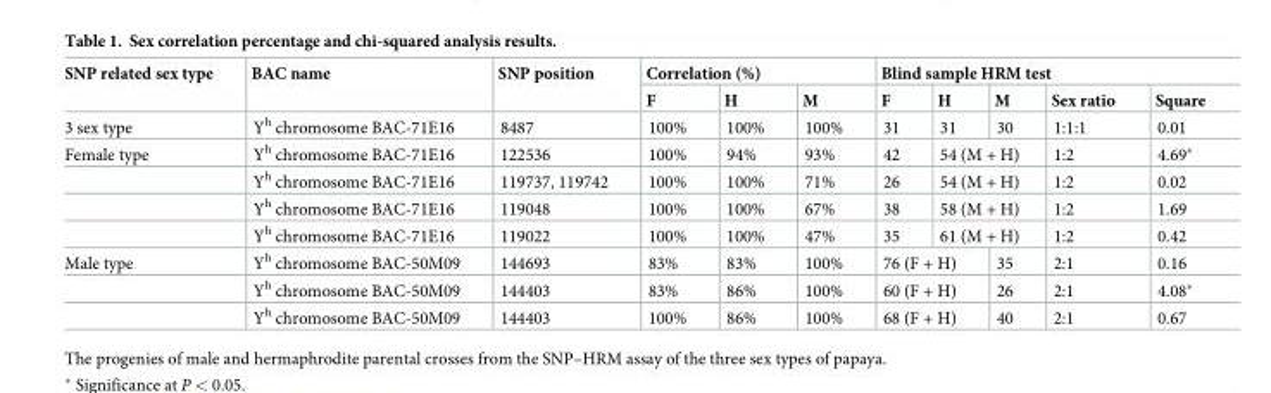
<table><thead><tr><td rowspan="2">SNP related sex type</td><td rowspan="2">BAC name</td><td rowspan="2">SNP position</td><td colspan="3">Correlation (%)</td><td colspan="5">Blind sample HRM test</td></tr><tr><td>F</td><td>H</td><td>M</td><td>F</td><td>H</td><td>M</td><td>Sex ratio</td><td>Square</td></tr></thead><tbody><tr><td>3 sex type</td><td>Y<sup>h</sup> chromosome BAC-71E16</td><td>8487</td><td>100%</td><td>100%</td><td>100%</td><td>31</td><td>31</td><td>30</td><td>1:1:1</td><td>0.01</td></tr><tr><td rowspan="4">Female type</td><td>Y<sup>h</sup> chromosome BAC-71E16</td><td>122536</td><td>100%</td><td>94%</td><td>93%</td><td>42</td><td colspan="2">54 (M + H)</td><td>1:2</td><td>4.69*</td></tr><tr><td>Y<sup>h</sup> chromosome BAC-71E16</td><td>119737, 119742</td><td>100%</td><td>100%</td><td>71%</td><td>26</td><td colspan="2">54 (M + H)</td><td>1:2</td><td>0.02</td></tr><tr><td>Y<sup>h</sup> chromosome BAC-71E16</td><td>119048</td><td>100%</td><td>100%</td><td>67%</td><td>38</td><td colspan="2">58 (M + H)</td><td>1:2</td><td>1.69</td></tr><tr><td>Y<sup>h</sup> chromosome BAC-71E16</td><td>119022</td><td>100%</td><td>100%</td><td>47%</td><td>35</td><td colspan="2">61 (M + H)</td><td>1:2</td><td>0.42</td></tr><tr><td rowspan="3">Male type</td><td>Y<sup>h</sup> chromosome BAC-50M09</td><td>144693</td><td>83%</td><td>83%</td><td>100%</td><td colspan="2">76 (F + H)</td><td>35</td><td>2:1</td><td>0.16</td></tr><tr><td>Y<sup>h</sup> chromosome BAC-50M09</td><td>144403</td><td>83%</td><td>86%</td><td>100%</td><td colspan="2">60 (F + H)</td><td>26</td><td>2:1</td><td>4.08*</td></tr><tr><td>Y<sup>h</sup> chromosome BAC-50M09</td><td>144403</td><td>100%</td><td>86%</td><td>100%</td><td colspan="2">68 (F + H)</td><td>40</td><td>2:1</td><td>0.67</td></tr></tbody></table>